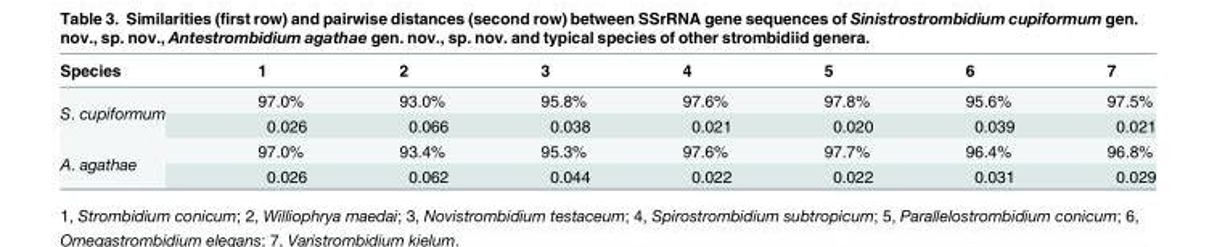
<table><thead><tr><td>Species</td><td>1</td><td>2</td><td>3</td><td>4</td><td>5</td><td>6</td><td>7</td></tr></thead><tbody><tr><td rowspan="2">S. cupiformum</td><td>97.0%</td><td>93.0%</td><td>95.8%</td><td>97.6%</td><td>97.8%</td><td>95.6%</td><td>97.5%</td></tr><tr><td>0.026</td><td>0.066</td><td>0.038</td><td>0.021</td><td>0.020</td><td>0.039</td><td>0.021</td></tr><tr><td rowspan="2">A. agathae</td><td>97.0%</td><td>93.4%</td><td>95.3%</td><td>97.6%</td><td>97.7%</td><td>96.4%</td><td>96.8%</td></tr><tr><td>0.026</td><td>0.062</td><td>0.044</td><td>0.022</td><td>0.022</td><td>0.031</td><td>0.029</td></tr></tbody></table>